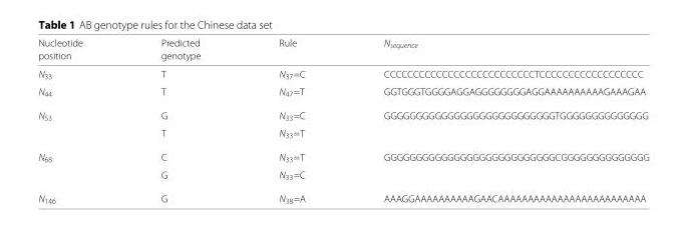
<table><thead><tr><td rowspan="2">Nucleotide position</td><td rowspan="2">Predicted genotype</td><td rowspan="2">Rule</td><td rowspan="2">N<sub>sequence</sub></td></tr><tr></tr></thead><tbody><tr><td>N<sub>33</sub></td><td>T</td><td>N<sub>37</sub>=C</td><td>CCCCCCCCCCCCCCCCCCCCCCCCCCTCCCCCCCCCCCCCCCCCC</td></tr><tr><td>N<sub>44</sub></td><td>T</td><td>N<sub>47</sub>=T</td><td>GGTGGGTGGGGAGGAGGGGGGGGAGGAAAAAAAAAAGAAAGAA</td></tr><tr><td rowspan="2">N<sub>53</sub></td><td>G</td><td>N<sub>33</sub>=C</td><td>GGGGGGGGGGGGGGGGGGGGGGGGGGGTGGGGGGGGGGGGGG</td></tr><tr><td>T</td><td>N<sub>33</sub>=T</td><td></td></tr><tr><td rowspan="2">N<sub>68</sub></td><td>C</td><td>N<sub>33</sub>=T</td><td>GGGGGGGGGGGGGGGGGGGGGGGGGGGCGGGGGGGGGGGGGG</td></tr><tr><td>G</td><td>N<sub>33</sub>=C</td><td></td></tr><tr><td>N<sub>146</sub></td><td>G</td><td>N<sub>38</sub>=A</td><td>AAAGGAAAAAAAAAAGAACAAAAAAAAAAAAAAAAAAAAAAAAA</td></tr></tbody></table>